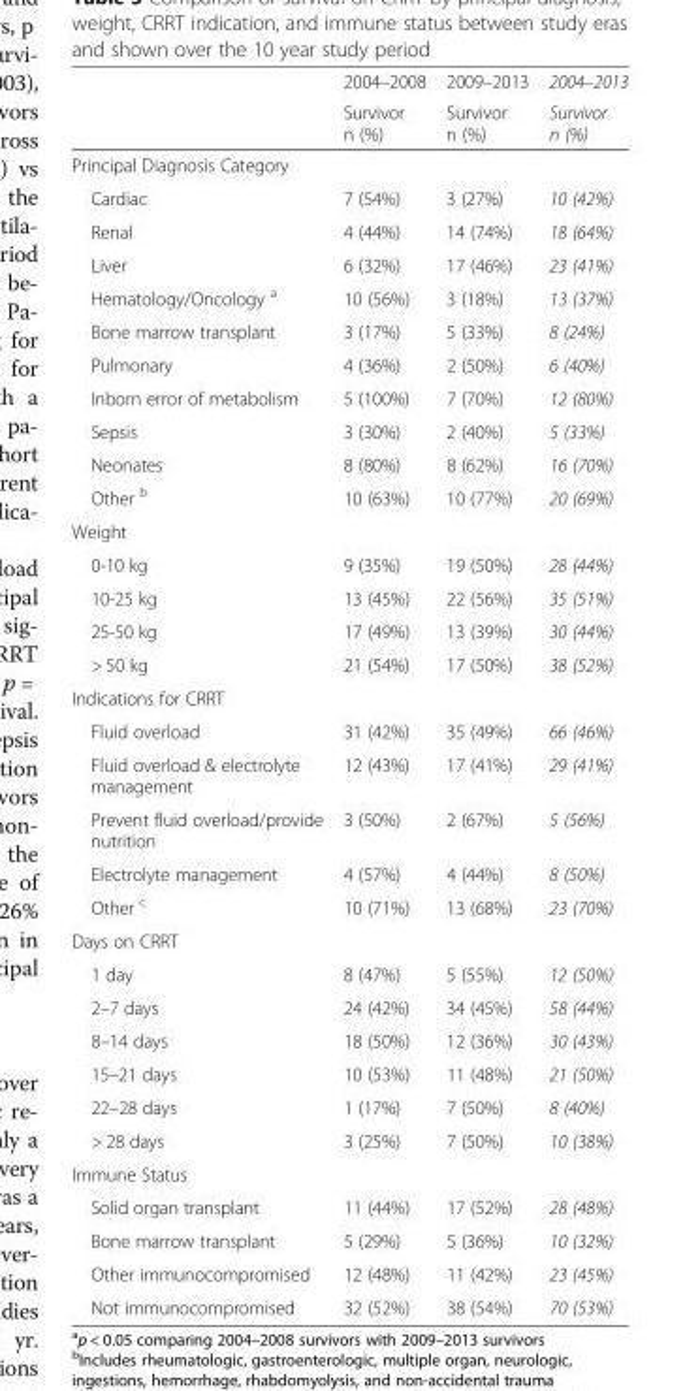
<table><thead><tr><td rowspan="2"></td><td rowspan="2">2004–2008 Survivor n (%)</td><td rowspan="2">2009–2013 Survivor n (%)</td><td rowspan="2">2004–2013 Survivor n (%)</td></tr><tr></tr></thead><tbody><tr><td colspan="4">Principal Diagnosis Category</td></tr><tr><td>Cardiac</td><td>7 (54%)</td><td>3 (27%)</td><td>10 (42%)</td></tr><tr><td>Renal</td><td>4 (44%)</td><td>14 (74%)</td><td>18 (64%)</td></tr><tr><td>Liver</td><td>6 (32%)</td><td>17 (46%)</td><td>23 (41%)</td></tr><tr><td>Hematology/Oncology <sup>a</sup></td><td>10 (56%)</td><td>3 (18%)</td><td>13 (37%)</td></tr><tr><td>Bone marrow transplant</td><td>3 (17%)</td><td>5 (33%)</td><td>8 (24%)</td></tr><tr><td>Pulmonary</td><td>4 (36%)</td><td>2 (50%)</td><td>6 (40%)</td></tr><tr><td>Inborn error of metabolism</td><td>5 (100%)</td><td>7 (70%)</td><td>12 (80%)</td></tr><tr><td>Sepsis</td><td>3 (30%)</td><td>2 (40%)</td><td>5 (33%)</td></tr><tr><td>Neonates</td><td>8 (80%)</td><td>8 (62%)</td><td>16 (70%)</td></tr><tr><td>Other <sup>b</sup></td><td>10 (63%)</td><td>10 (77%)</td><td>20 (69%)</td></tr><tr><td colspan="4">Weight</td></tr><tr><td>0-10 kg</td><td>9 (35%)</td><td>19 (50%)</td><td>28 (44%)</td></tr><tr><td>10-25 kg</td><td>13 (45%)</td><td>22 (56%)</td><td>35 (51%)</td></tr><tr><td>25-50 kg</td><td>17 (49%)</td><td>13 (39%)</td><td>30 (44%)</td></tr><tr><td>&gt; 50 kg</td><td>21 (54%)</td><td>17 (50%)</td><td>38 (52%)</td></tr><tr><td colspan="4">Indications for CRRT</td></tr><tr><td>Fluid overload</td><td>31 (42%)</td><td>35 (49%)</td><td>66 (46%)</td></tr><tr><td>Fluid overload &amp; electrolyte management</td><td>12 (43%)</td><td>17 (41%)</td><td>29 (41%)</td></tr><tr><td>Prevent fluid overload/provide nutrition</td><td>3 (50%)</td><td>2 (67%)</td><td>5 (56%)</td></tr><tr><td>Electrolyte management</td><td>4 (57%)</td><td>4 (44%)</td><td>8 (50%)</td></tr><tr><td>Other <sup>c</sup></td><td>10 (71%)</td><td>13 (68%)</td><td>23 (70%)</td></tr><tr><td colspan="4">Days on CRRT</td></tr><tr><td>1 day</td><td>8 (47%)</td><td>5 (55%)</td><td>12 (50%)</td></tr><tr><td>2–7 days</td><td>24 (42%)</td><td>34 (45%)</td><td>58 (44%)</td></tr><tr><td>8–14 days</td><td>18 (50%)</td><td>12 (36%)</td><td>30 (43%)</td></tr><tr><td>15–21 days</td><td>10 (53%)</td><td>11 (48%)</td><td>21 (50%)</td></tr><tr><td>22–28 days</td><td>1 (17%)</td><td>7 (50%)</td><td>8 (40%)</td></tr><tr><td>&gt; 28 days</td><td>3 (25%)</td><td>7 (50%)</td><td>10 (38%)</td></tr><tr><td colspan="4">Immune Status</td></tr><tr><td>Solid organ transplant</td><td>11 (44%)</td><td>17 (52%)</td><td>28 (48%)</td></tr><tr><td>Bone marrow transplant</td><td>5 (29%)</td><td>5 (36%)</td><td>10 (32%)</td></tr><tr><td>Other immunocompromised</td><td>12 (48%)</td><td>11 (42%)</td><td>23 (45%)</td></tr><tr><td>Not immunocompromised</td><td>32 (52%)</td><td>38 (54%)</td><td>70 (53%)</td></tr></tbody></table>